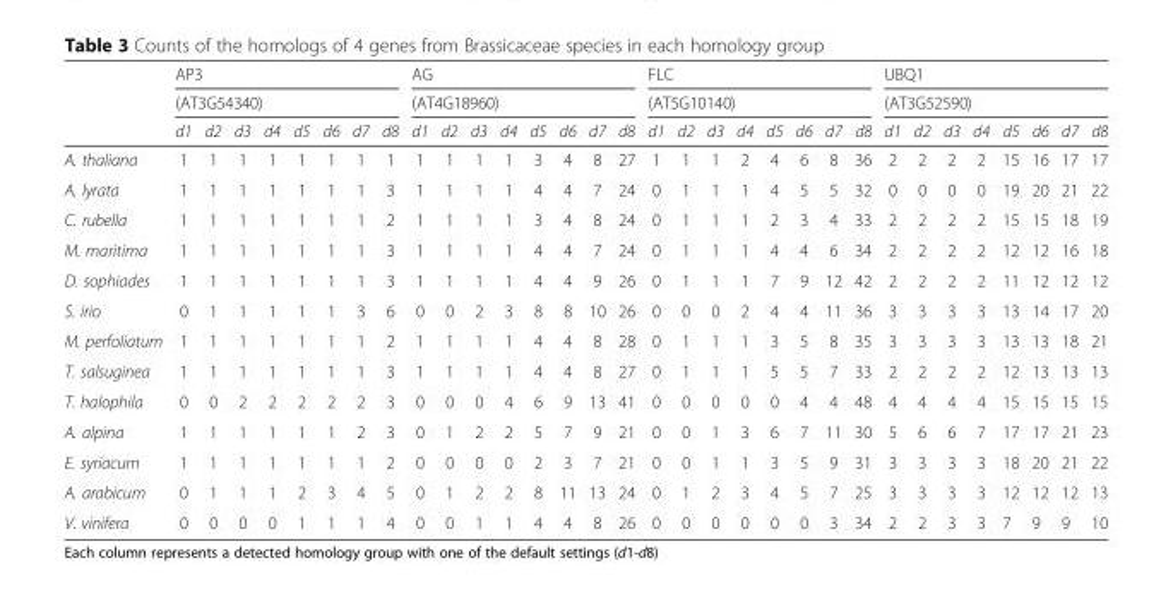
<table><thead><tr><td rowspan="3"></td><td rowspan="2" colspan="8">AP3 (AT3G54340)</td><td rowspan="2" colspan="8">AG (AT4G18960)</td><td rowspan="2" colspan="8">FLC (AT5G10140)</td><td rowspan="2" colspan="8">UBQ1 (AT3G52590)</td></tr><tr></tr><tr><td>d1</td><td>d2</td><td>d3</td><td>d4</td><td>d5</td><td>d6</td><td>d7</td><td>d8</td><td>d1</td><td>d2</td><td>d3</td><td>d4</td><td>d5</td><td>d6</td><td>d7</td><td>d8</td><td>d1</td><td>d2</td><td>d3</td><td>d4</td><td>d5</td><td>d6</td><td>d7</td><td>d8</td><td>d1</td><td>d2</td><td>d3</td><td>d4</td><td>d5</td><td>d6</td><td>d7</td><td>d8</td></tr></thead><tbody><tr><td>A. thaliana</td><td>1</td><td>1</td><td>1</td><td>1</td><td>1</td><td>1</td><td>1</td><td>1</td><td>1</td><td>1</td><td>1</td><td>1</td><td>3</td><td>4</td><td>8</td><td>27</td><td>1</td><td>1</td><td>1</td><td>2</td><td>4</td><td>6</td><td>8</td><td>36</td><td>2</td><td>2</td><td>2</td><td>2</td><td>15</td><td>16</td><td>17</td><td>17</td></tr><tr><td>A. lyrata</td><td>1</td><td>1</td><td>1</td><td>1</td><td>1</td><td>1</td><td>1</td><td>3</td><td>1</td><td>1</td><td>1</td><td>1</td><td>4</td><td>4</td><td>7</td><td>24</td><td>0</td><td>1</td><td>1</td><td>1</td><td>4</td><td>5</td><td>5</td><td>32</td><td>0</td><td>0</td><td>0</td><td>0</td><td>19</td><td>20</td><td>21</td><td>22</td></tr><tr><td>C. rubella</td><td>1</td><td>1</td><td>1</td><td>1</td><td>1</td><td>1</td><td>1</td><td>2</td><td>1</td><td>1</td><td>1</td><td>1</td><td>3</td><td>4</td><td>8</td><td>24</td><td>0</td><td>1</td><td>1</td><td>1</td><td>2</td><td>3</td><td>4</td><td>33</td><td>2</td><td>2</td><td>2</td><td>2</td><td>15</td><td>15</td><td>18</td><td>19</td></tr><tr><td>M. maritima</td><td>1</td><td>1</td><td>1</td><td>1</td><td>1</td><td>1</td><td>1</td><td>3</td><td>1</td><td>1</td><td>1</td><td>1</td><td>4</td><td>4</td><td>7</td><td>24</td><td>0</td><td>1</td><td>1</td><td>1</td><td>4</td><td>4</td><td>6</td><td>34</td><td>2</td><td>2</td><td>2</td><td>2</td><td>12</td><td>12</td><td>16</td><td>18</td></tr><tr><td>D. sophiades</td><td>1</td><td>1</td><td>1</td><td>1</td><td>1</td><td>1</td><td>1</td><td>3</td><td>1</td><td>1</td><td>1</td><td>1</td><td>4</td><td>4</td><td>9</td><td>26</td><td>0</td><td>1</td><td>1</td><td>1</td><td>7</td><td>9</td><td>12</td><td>42</td><td>2</td><td>2</td><td>2</td><td>2</td><td>11</td><td>12</td><td>12</td><td>12</td></tr><tr><td>S. irio</td><td>0</td><td>1</td><td>1</td><td>1</td><td>1</td><td>1</td><td>3</td><td>6</td><td>0</td><td>0</td><td>2</td><td>3</td><td>8</td><td>8</td><td>10</td><td>26</td><td>0</td><td>0</td><td>0</td><td>2</td><td>4</td><td>4</td><td>11</td><td>36</td><td>3</td><td>3</td><td>3</td><td>3</td><td>13</td><td>14</td><td>17</td><td>20</td></tr><tr><td>M. perfoliatum</td><td>1</td><td>1</td><td>1</td><td>1</td><td>1</td><td>1</td><td>1</td><td>2</td><td>1</td><td>1</td><td>1</td><td>1</td><td>4</td><td>4</td><td>8</td><td>28</td><td>0</td><td>1</td><td>1</td><td>1</td><td>3</td><td>5</td><td>8</td><td>35</td><td>3</td><td>3</td><td>3</td><td>3</td><td>13</td><td>13</td><td>18</td><td>21</td></tr><tr><td>T. salsuginea</td><td>1</td><td>1</td><td>1</td><td>1</td><td>1</td><td>1</td><td>1</td><td>3</td><td>1</td><td>1</td><td>1</td><td>1</td><td>4</td><td>4</td><td>8</td><td>27</td><td>0</td><td>1</td><td>1</td><td>1</td><td>5</td><td>5</td><td>7</td><td>33</td><td>2</td><td>2</td><td>2</td><td>2</td><td>12</td><td>13</td><td>13</td><td>13</td></tr><tr><td>T. halophila</td><td>0</td><td>0</td><td>2</td><td>2</td><td>2</td><td>2</td><td>2</td><td>3</td><td>0</td><td>0</td><td>0</td><td>4</td><td>6</td><td>9</td><td>13</td><td>41</td><td>0</td><td>0</td><td>0</td><td>0</td><td>0</td><td>4</td><td>4</td><td>48</td><td>4</td><td>4</td><td>4</td><td>4</td><td>15</td><td>15</td><td>15</td><td>15</td></tr><tr><td>A. alpina</td><td>1</td><td>1</td><td>1</td><td>1</td><td>1</td><td>1</td><td>2</td><td>3</td><td>0</td><td>1</td><td>2</td><td>2</td><td>5</td><td>7</td><td>9</td><td>21</td><td>0</td><td>0</td><td>1</td><td>3</td><td>6</td><td>7</td><td>11</td><td>30</td><td>5</td><td>6</td><td>6</td><td>7</td><td>17</td><td>17</td><td>21</td><td>23</td></tr><tr><td>E. syriacum</td><td>1</td><td>1</td><td>1</td><td>1</td><td>1</td><td>1</td><td>1</td><td>2</td><td>0</td><td>0</td><td>0</td><td>0</td><td>2</td><td>3</td><td>7</td><td>21</td><td>0</td><td>0</td><td>1</td><td>1</td><td>3</td><td>5</td><td>9</td><td>31</td><td>3</td><td>3</td><td>3</td><td>3</td><td>18</td><td>20</td><td>21</td><td>22</td></tr><tr><td>A. arabicum</td><td>0</td><td>1</td><td>1</td><td>1</td><td>2</td><td>3</td><td>4</td><td>5</td><td>0</td><td>1</td><td>2</td><td>2</td><td>8</td><td>11</td><td>13</td><td>24</td><td>0</td><td>1</td><td>2</td><td>3</td><td>4</td><td>5</td><td>7</td><td>25</td><td>3</td><td>3</td><td>3</td><td>3</td><td>12</td><td>12</td><td>12</td><td>13</td></tr><tr><td>V. vinifera</td><td>0</td><td>0</td><td>0</td><td>0</td><td>1</td><td>1</td><td>1</td><td>4</td><td>0</td><td>0</td><td>1</td><td>1</td><td>4</td><td>4</td><td>8</td><td>26</td><td>0</td><td>0</td><td>0</td><td>0</td><td>0</td><td>0</td><td>3</td><td>34</td><td>2</td><td>2</td><td>3</td><td>3</td><td>7</td><td>9</td><td>9</td><td>10</td></tr></tbody></table>